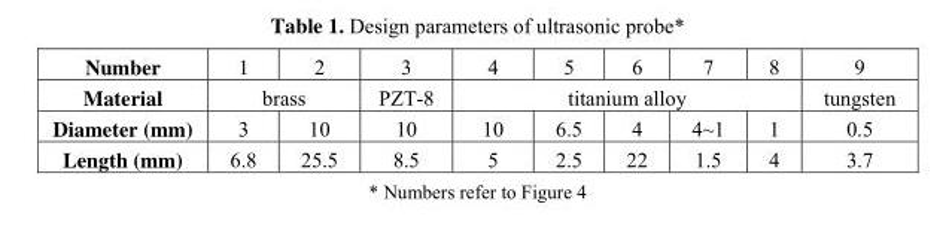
<table><tbody><tr><td>Number</td><td>1</td><td>2</td><td>3</td><td>4</td><td>5</td><td>6</td><td>7</td><td>8</td><td>9</td></tr><tr><td>Material</td><td colspan="2">brass</td><td>PZT-8</td><td colspan="5">titanium alloy</td><td>tungsten</td></tr><tr><td>Diameter (mm)</td><td>3</td><td>10</td><td>10</td><td>10</td><td>6.5</td><td>4</td><td>4~1</td><td>1</td><td>0.5</td></tr><tr><td>Length (mm)</td><td>6.8</td><td>25.5</td><td>8.5</td><td>5</td><td>2.5</td><td>22</td><td>1.5</td><td>4</td><td>3.7</td></tr></tbody></table>